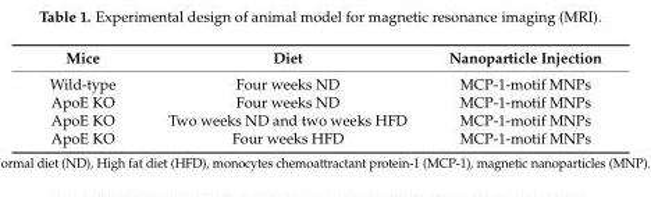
<table><thead><tr><td>Mice</td><td>Diet</td><td>Nanoparticle Injection</td></tr></thead><tbody><tr><td>Wild-type</td><td>Four weeks ND</td><td>MCP-1-motif MNPs</td></tr><tr><td>ApoE KO</td><td>Four weeks ND</td><td>MCP-1-motif MNPs</td></tr><tr><td>ApoE KO</td><td>Two weeks ND and two weeks HFD</td><td>MCP-1-motif MNPs</td></tr><tr><td>ApoE KO</td><td>Four weeks HFD</td><td>MCP-1-motif MNPs</td></tr></tbody></table>